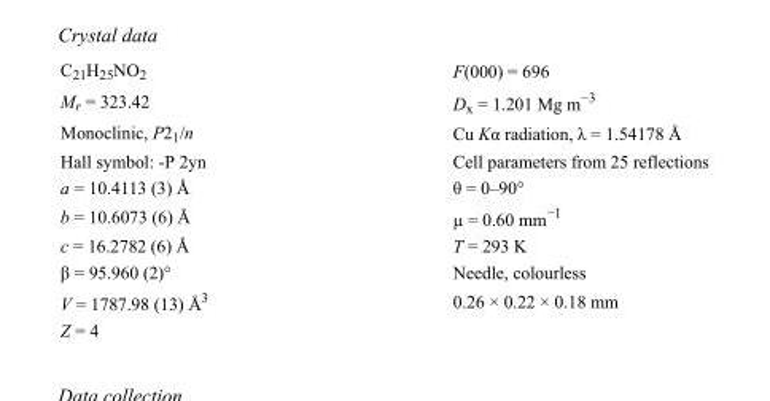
<table><tbody><tr><td>C<sub>21</sub>H<sub>25</sub>NO<sub>2</sub></td><td>F(000) = 696</td></tr><tr><td>M<sub>r</sub> = 323.42</td><td>D<sub>x</sub> = 1.201 Mg m<sup>−3</sup></td></tr><tr><td>Monoclinic, P2<sub>1</sub>/n</td><td>Cu Kα radiation, λ = 1.54178 Å</td></tr><tr><td>Hall symbol: -P 2yn</td><td>Cell parameters from 25 reflections</td></tr><tr><td>a = 10.4113 (3) Å</td><td>θ = 0–90°</td></tr><tr><td>b = 10.6073 (6) Å</td><td>µ = 0.60 mm<sup>−1</sup></td></tr><tr><td>c = 16.2782 (6) Å</td><td>T = 293 K</td></tr><tr><td>β = 95.960 (2)°</td><td>Needle, colourless</td></tr><tr><td>V = 1787.98 (13) Å<sup>3</sup></td><td>0.26 × 0.22 × 0.18 mm</td></tr><tr><td>Z = 4</td><td></td></tr></tbody></table>